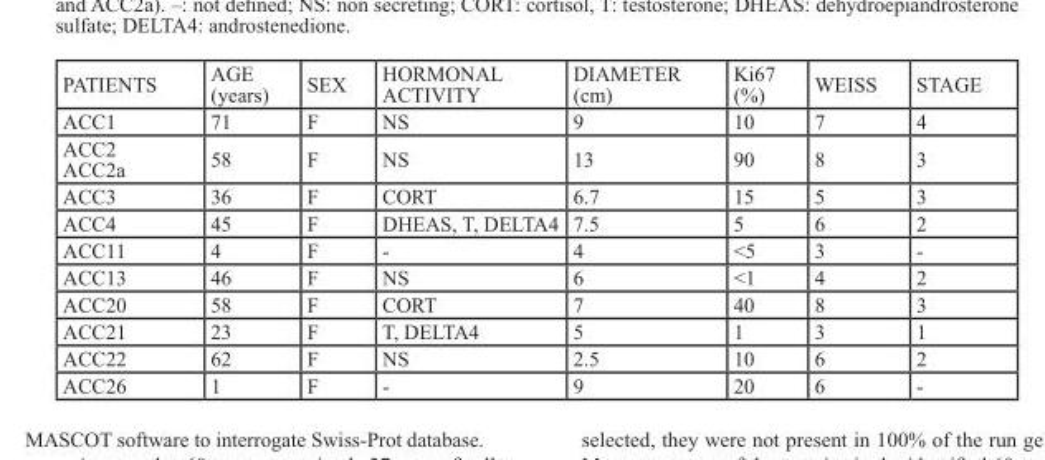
<table><thead><tr><td>PATIENTS</td><td>AGE (years)</td><td>SEX</td><td>HORMONAL ACTIVITY</td><td>DIAMETER (cm)</td><td>Ki67 (%)</td><td>WEISS</td><td>STAGE</td></tr></thead><tbody><tr><td>ACC1</td><td>71</td><td>F</td><td>NS</td><td>9</td><td>10</td><td>7</td><td>4</td></tr><tr><td>ACC2 ACC2a</td><td>58</td><td>F</td><td>NS</td><td>13</td><td>90</td><td>8</td><td>3</td></tr><tr><td>ACC3</td><td>36</td><td>F</td><td>CORT</td><td>6.7</td><td>15</td><td>5</td><td>3</td></tr><tr><td>ACC4</td><td>45</td><td>F</td><td>DHEAS, T, DELTA4</td><td>7.5</td><td>5</td><td>6</td><td>2</td></tr><tr><td>ACC11</td><td>4</td><td>F</td><td>-</td><td>4</td><td>&lt;5</td><td>3</td><td>-</td></tr><tr><td>ACC13</td><td>46</td><td>F</td><td>NS</td><td>6</td><td>&lt;1</td><td>4</td><td>2</td></tr><tr><td>ACC20</td><td>58</td><td>F</td><td>CORT</td><td>7</td><td>40</td><td>8</td><td>3</td></tr><tr><td>ACC21</td><td>23</td><td>F</td><td>T, DELTA4</td><td>5</td><td>1</td><td>3</td><td>1</td></tr><tr><td>ACC22</td><td>62</td><td>F</td><td>NS</td><td>2.5</td><td>10</td><td>6</td><td>2</td></tr><tr><td>ACC26</td><td>1</td><td>F</td><td>-</td><td>9</td><td>20</td><td>6</td><td>-</td></tr></tbody></table>